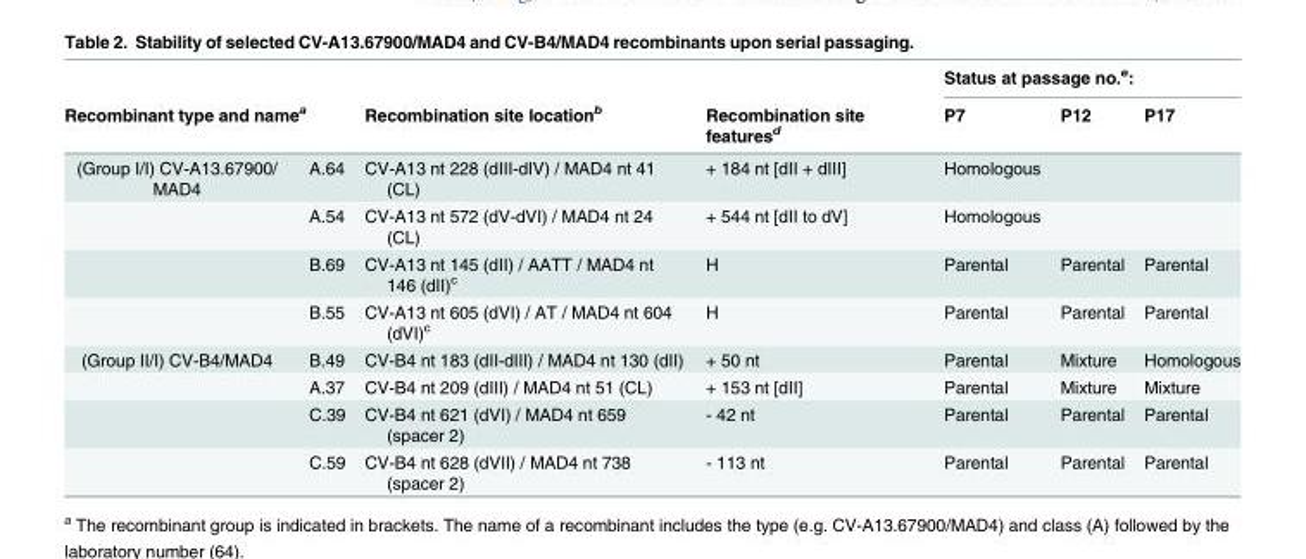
<table><thead><tr><td></td><td></td><td rowspan="2">Recombination site location<sup>b</sup></td><td rowspan="2">Recombination site features<sup>d</sup></td><td colspan="3">Status at passage no.<sup>e</sup>:</td></tr><tr><td colspan="2">Recombinant type and name<sup>a</sup></td><td>P7</td><td>P12</td><td>P17</td></tr></thead><tbody><tr><td rowspan="4">(Group I/I) CV-A13.67900/ MAD4</td><td>A.64</td><td>CV-A13 nt 228 (dIII-dIV) / MAD4 nt 41 (CL)</td><td>+ 184 nt [dII + dIII]</td><td>Homologous</td><td></td><td></td></tr><tr><td>A.54</td><td>CV-A13 nt 572 (dV-dVI) / MAD4 nt 24 (CL)</td><td>+ 544 nt [dII to dV]</td><td>Homologous</td><td></td><td></td></tr><tr><td>B.69</td><td>CV-A13 nt 145 (dII) / AATT / MAD4 nt 146 (dII)<sup>c</sup></td><td>H</td><td>Parental</td><td>Parental</td><td>Parental</td></tr><tr><td>B.55</td><td>CV-A13 nt 605 (dVI) / AT / MAD4 nt 604 (dVI)<sup>c</sup></td><td>H</td><td>Parental</td><td>Parental</td><td>Parental</td></tr><tr><td rowspan="4">(Group II/I) CV-B4/MAD4</td><td>B.49</td><td>CV-B4 nt 183 (dII-dIII) / MAD4 nt 130 (dII)</td><td>+ 50 nt</td><td>Parental</td><td>Mixture</td><td>Homologous</td></tr><tr><td>A.37</td><td>CV-B4 nt 209 (dIII) / MAD4 nt 51 (CL)</td><td>+ 153 nt [dII]</td><td>Parental</td><td>Mixture</td><td>Mixture</td></tr><tr><td>C.39</td><td>CV-B4 nt 621 (dVI) / MAD4 nt 659 (spacer 2)</td><td>- 42 nt</td><td>Parental</td><td>Parental</td><td>Parental</td></tr><tr><td>C.59</td><td>CV-B4 nt 628 (dVII) / MAD4 nt 738 (spacer 2)</td><td>- 113 nt</td><td>Parental</td><td>Parental</td><td>Parental</td></tr></tbody></table>